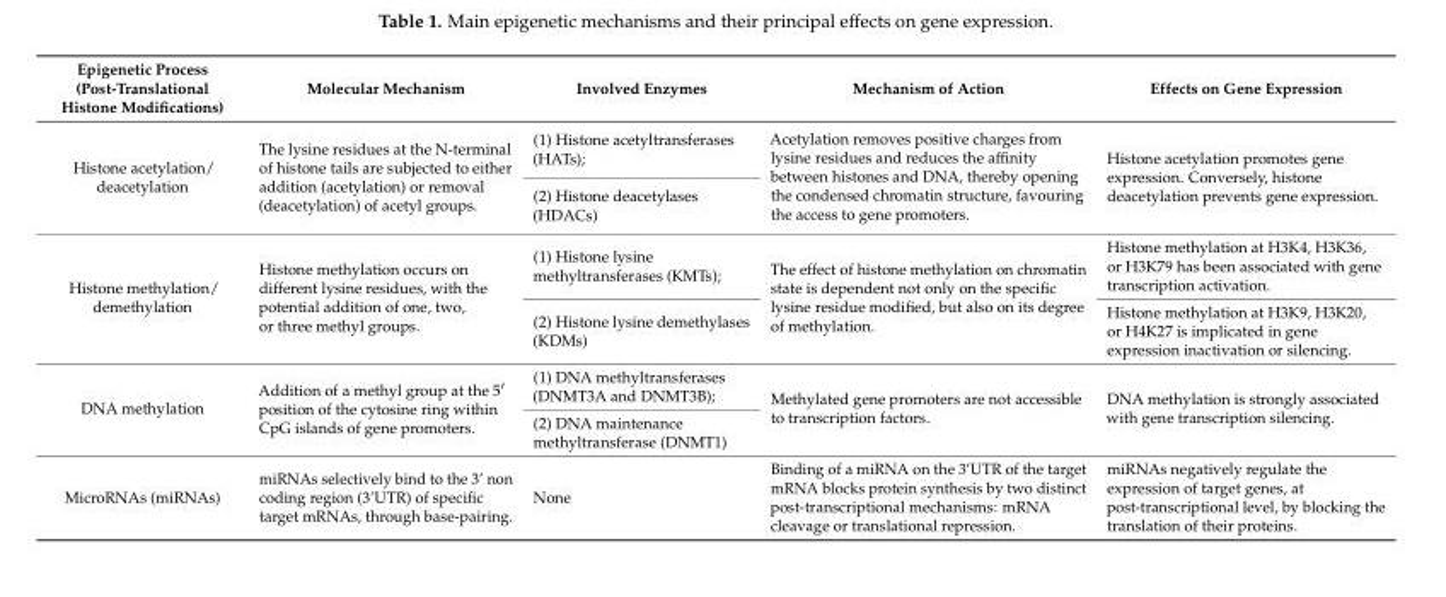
<table><thead><tr><td>Epigenetic Process (Post-Translational Histone Modifications)</td><td>Molecular Mechanism</td><td>Involved Enzymes</td><td>Mechanism of Action</td><td>Effects on Gene Expression</td></tr></thead><tbody><tr><td rowspan="2">Histone acetylation/ deacetylation</td><td rowspan="2">The lysine residues at the N-terminal of histone tails are subjected to either addition (acetylation) or removal (deacetylation) of acetyl groups.</td><td>(1) Histone acetyltransferases (HATs);</td><td rowspan="2">Acetylation removes positive charges from lysine residues and reduces the affinity between histones and DNA, thereby opening the condensed chromatin structure, favouring the access to gene promoters.</td><td rowspan="2">Histone acetylation promotes gene expression. Conversely, histone deacetylation prevents gene expression.</td></tr><tr><td>(2) Histone deacetylases (HDACs)</td></tr><tr><td rowspan="2">Histone methylation/ demethylation</td><td rowspan="2">Histone methylation occurs on different lysine residues, with the potential addition of one, two, or three methyl groups.</td><td>(1) Histone lysine methyltransferases (KMTs);</td><td rowspan="2">The effect of histone methylation on chromatin state is dependent not only on the specific lysine residue modified, but also on its degree of methylation.</td><td>Histone methylation at H3K4, H3K36, or H3K79 has been associated with gene transcription activation.</td></tr><tr><td>(2) Histone lysine demethylases (KDMs)</td><td>Histone methylation at H3K9, H3K20, or H4K27 is implicated in gene expression inactivation or silencing.</td></tr><tr><td rowspan="2">DNA methylation</td><td rowspan="2">Addition of a methyl group at the 5′ position of the cytosine ring within CpG islands of gene promoters.</td><td>(1) DNA methyltransferases (DNMT3A and DNMT3B);</td><td rowspan="2">Methylated gene promoters are not accessible to transcription factors.</td><td rowspan="2">DNA methylation is strongly associated with gene transcription silencing.</td></tr><tr><td>(2) DNA maintenance methyltransferase (DNMT1)</td></tr><tr><td>MicroRNAs (miRNAs)</td><td>miRNAs selectively bind to the 3’ non coding region (3’UTR) of specific target mRNAs, through base-pairing.</td><td>None</td><td>Binding of a miRNA on the 3’UTR of the target mRNA blocks protein synthesis by two distinct post-transcriptional mechanisms: mRNA cleavage or translational repression.</td><td>miRNAs negatively regulate the expression of target genes, at post-transcriptional level, by blocking the translation of their proteins.</td></tr></tbody></table>